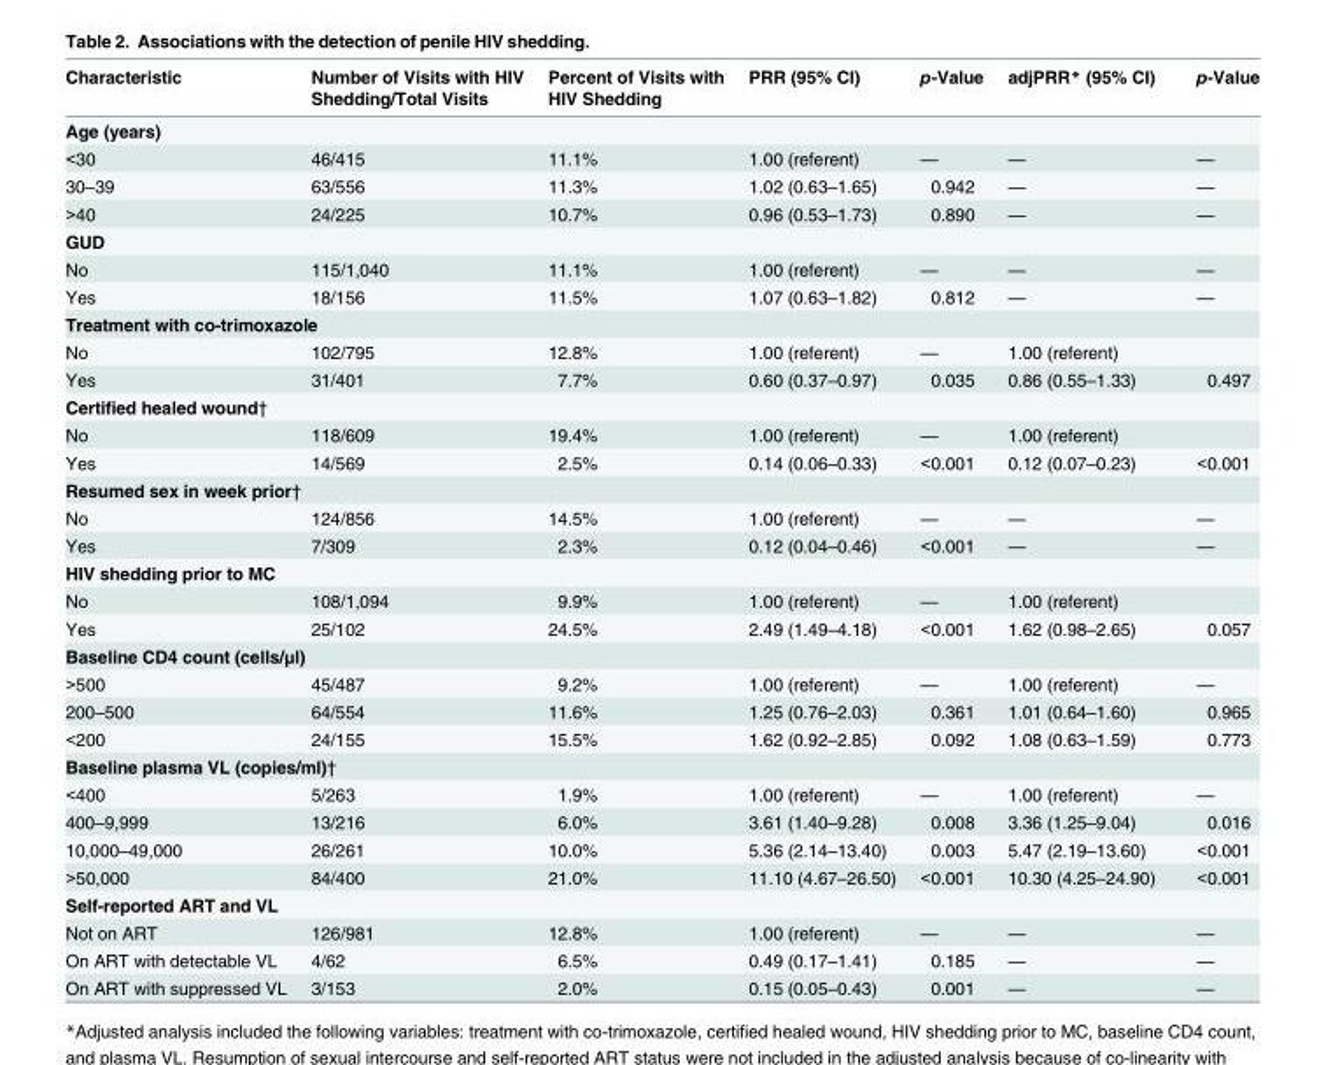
<table><thead><tr><td>Characteristic</td><td>Number of Visits with HIV Shedding/Total Visits</td><td>Percent of Visits with HIV Shedding</td><td>PRR (95% CI)</td><td>p-Value</td><td>adjPRR* (95% CI)</td><td>p-Value</td></tr></thead><tbody><tr><td colspan="7">Age (years)</td></tr><tr><td>&lt;30</td><td>46/415</td><td>11.1%</td><td>1.00 (referent)</td><td>—</td><td>—</td><td>—</td></tr><tr><td>30–39</td><td>63/556</td><td>11.3%</td><td>1.02 (0.63–1.65)</td><td>0.942</td><td>—</td><td>—</td></tr><tr><td>&gt;40</td><td>24/225</td><td>10.7%</td><td>0.96 (0.53–1.73)</td><td>0.890</td><td>—</td><td>—</td></tr><tr><td colspan="7">GUD</td></tr><tr><td>No</td><td>115/1,040</td><td>11.1%</td><td>1.00 (referent)</td><td>—</td><td>—</td><td>—</td></tr><tr><td>Yes</td><td>18/156</td><td>11.5%</td><td>1.07 (0.63–1.82)</td><td>0.812</td><td>—</td><td>—</td></tr><tr><td colspan="7">Treatment with co-trimoxazole</td></tr><tr><td>No</td><td>102/795</td><td>12.8%</td><td>1.00 (referent)</td><td>—</td><td>1.00 (referent)</td><td></td></tr><tr><td>Yes</td><td>31/401</td><td>7.7%</td><td>0.60 (0.37–0.97)</td><td>0.035</td><td>0.86 (0.55–1.33)</td><td>0.497</td></tr><tr><td colspan="7">Certified healed wound†</td></tr><tr><td>No</td><td>118/609</td><td>19.4%</td><td>1.00 (referent)</td><td>—</td><td>1.00 (referent)</td><td></td></tr><tr><td>Yes</td><td>14/569</td><td>2.5%</td><td>0.14 (0.06–0.33)</td><td>&lt;0.001</td><td>0.12 (0.07–0.23)</td><td>&lt;0.001</td></tr><tr><td colspan="7">Resumed sex in week prior†</td></tr><tr><td>No</td><td>124/856</td><td>14.5%</td><td>1.00 (referent)</td><td>—</td><td>—</td><td>—</td></tr><tr><td>Yes</td><td>7/309</td><td>2.3%</td><td>0.12 (0.04–0.46)</td><td>&lt;0.001</td><td>—</td><td>—</td></tr><tr><td colspan="7">HIV shedding prior to MC</td></tr><tr><td>No</td><td>108/1,094</td><td>9.9%</td><td>1.00 (referent)</td><td>—</td><td>1.00 (referent)</td><td></td></tr><tr><td>Yes</td><td>25/102</td><td>24.5%</td><td>2.49 (1.49–4.18)</td><td>&lt;0.001</td><td>1.62 (0.98–2.65)</td><td>0.057</td></tr><tr><td colspan="7">Baseline CD4 count (cells/μl)</td></tr><tr><td>&gt;500</td><td>45/487</td><td>9.2%</td><td>1.00 (referent)</td><td>—</td><td>1.00 (referent)</td><td>—</td></tr><tr><td>200–500</td><td>64/554</td><td>11.6%</td><td>1.25 (0.76–2.03)</td><td>0.361</td><td>1.01 (0.64–1.60)</td><td>0.965</td></tr><tr><td>&lt;200</td><td>24/155</td><td>15.5%</td><td>1.62 (0.92–2.85)</td><td>0.092</td><td>1.08 (0.63–1.59)</td><td>0.773</td></tr><tr><td colspan="7">Baseline plasma VL (copies/ml)†</td></tr><tr><td>&lt;400</td><td>5/263</td><td>1.9%</td><td>1.00 (referent)</td><td>—</td><td>1.00 (referent)</td><td>—</td></tr><tr><td>400–9,999</td><td>13/216</td><td>6.0%</td><td>3.61 (1.40–9.28)</td><td>0.008</td><td>3.36 (1.25–9.04)</td><td>0.016</td></tr><tr><td>10,000–49,000</td><td>26/261</td><td>10.0%</td><td>5.36 (2.14–13.40)</td><td>0.003</td><td>5.47 (2.19–13.60)</td><td>&lt;0.001</td></tr><tr><td>&gt;50,000</td><td>84/400</td><td>21.0%</td><td>11.10 (4.67–26.50)</td><td>&lt;0.001</td><td>10.30 (4.25–24.90)</td><td>&lt;0.001</td></tr><tr><td colspan="7">Self-reported ART and VL</td></tr><tr><td>Not on ART</td><td>126/981</td><td>12.8%</td><td>1.00 (referent)</td><td>—</td><td>—</td><td>—</td></tr><tr><td>On ART with detectable VL</td><td>4/62</td><td>6.5%</td><td>0.49 (0.17–1.41)</td><td>0.185</td><td>—</td><td>—</td></tr><tr><td>On ART with suppressed VL</td><td>3/153</td><td>2.0%</td><td>0.15 (0.05–0.43)</td><td>0.001</td><td>—</td><td>—</td></tr></tbody></table>